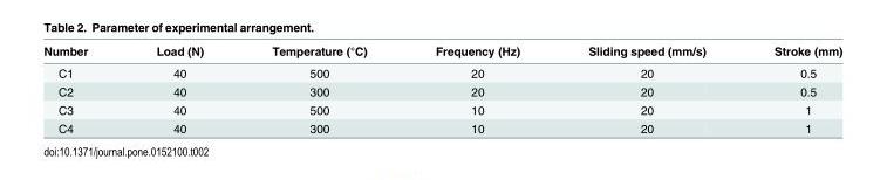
<table><thead><tr><td>Number</td><td>Load (N)</td><td>Temperature (°C)</td><td>Frequency (Hz)</td><td>Sliding speed (mm/s)</td><td>Stroke (mm)</td></tr></thead><tbody><tr><td>C1</td><td>40</td><td>500</td><td>20</td><td>20</td><td>0.5</td></tr><tr><td>C2</td><td>40</td><td>300</td><td>20</td><td>20</td><td>0.5</td></tr><tr><td>C3</td><td>40</td><td>500</td><td>10</td><td>20</td><td>1</td></tr><tr><td>C4</td><td>40</td><td>300</td><td>10</td><td>20</td><td>1</td></tr></tbody></table>